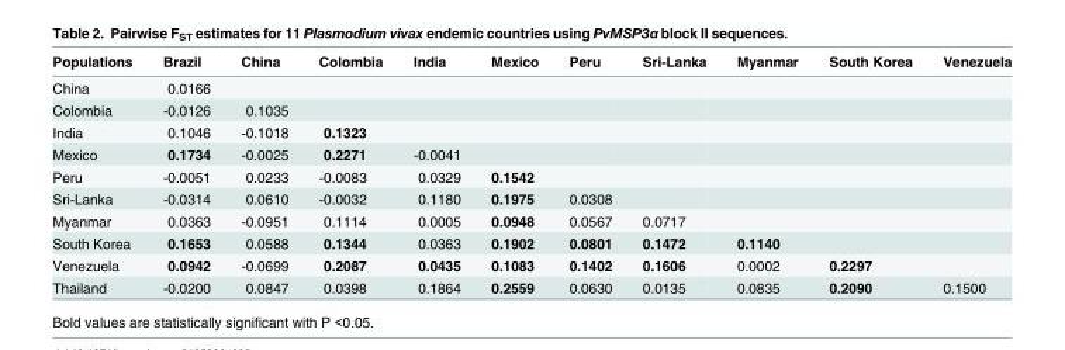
<table><thead><tr><td>Populations</td><td>Brazil</td><td>China</td><td>Colombia</td><td>India</td><td>Mexico</td><td>Peru</td><td>Sri-Lanka</td><td>Myanmar</td><td>South Korea</td><td>Venezuela</td></tr></thead><tbody><tr><td>China</td><td>0.0166</td><td></td><td></td><td></td><td></td><td></td><td></td><td></td><td></td><td></td></tr><tr><td>Colombia</td><td>-0.0126</td><td>0.1035</td><td></td><td></td><td></td><td></td><td></td><td></td><td></td><td></td></tr><tr><td>India</td><td>0.1046</td><td>-0.1018</td><td>0.1323</td><td></td><td></td><td></td><td></td><td></td><td></td><td></td></tr><tr><td>Mexico</td><td>0.1734</td><td>-0.0025</td><td>0.2271</td><td>-0.0041</td><td></td><td></td><td></td><td></td><td></td><td></td></tr><tr><td>Peru</td><td>-0.0051</td><td>0.0233</td><td>-0.0083</td><td>0.0329</td><td>0.1542</td><td></td><td></td><td></td><td></td><td></td></tr><tr><td>Sri-Lanka</td><td>-0.0314</td><td>0.0610</td><td>-0.0032</td><td>0.1180</td><td>0.1975</td><td>0.0308</td><td></td><td></td><td></td><td></td></tr><tr><td>Myanmar</td><td>0.0363</td><td>-0.0951</td><td>0.1114</td><td>0.0005</td><td>0.0948</td><td>0.0567</td><td>0.0717</td><td></td><td></td><td></td></tr><tr><td>South Korea</td><td>0.1653</td><td>0.0588</td><td>0.1344</td><td>0.0363</td><td>0.1902</td><td>0.0801</td><td>0.1472</td><td>0.1140</td><td></td><td></td></tr><tr><td>Venezuela</td><td>0.0942</td><td>-0.0699</td><td>0.2087</td><td>0.0435</td><td>0.1083</td><td>0.1402</td><td>0.1606</td><td>0.0002</td><td>0.2297</td><td></td></tr><tr><td>Thailand</td><td>-0.0200</td><td>0.0847</td><td>0.0398</td><td>0.1864</td><td>0.2559</td><td>0.0630</td><td>0.0135</td><td>0.0835</td><td>0.2090</td><td>0.1500</td></tr></tbody></table>